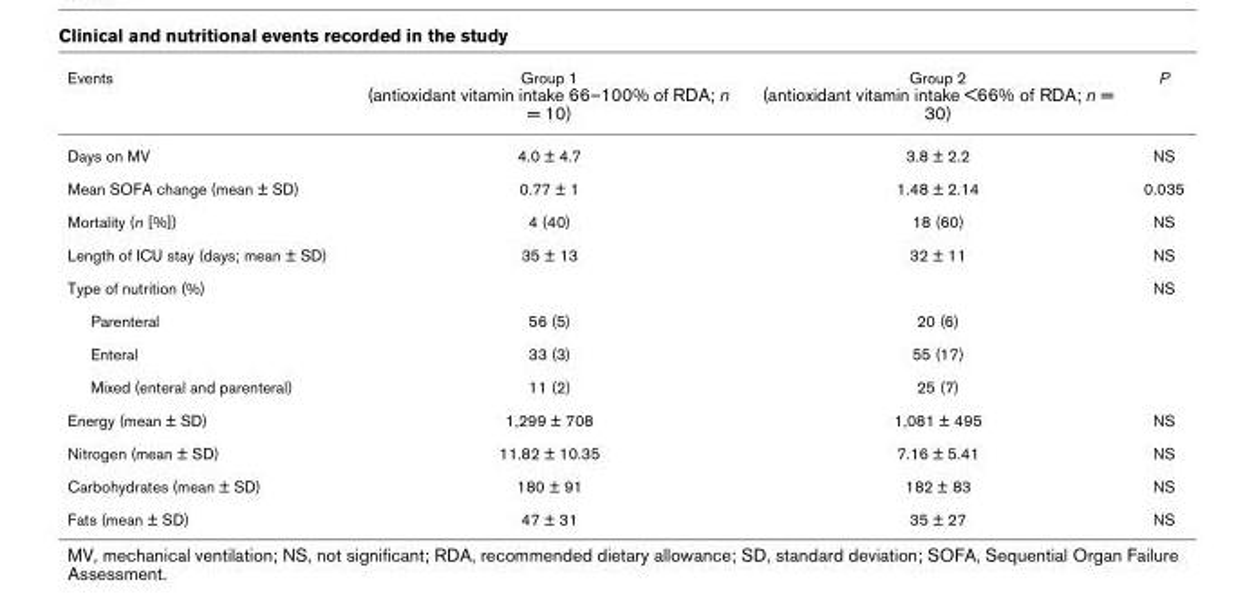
<table><thead><tr><td>Events</td><td>Group 1 (antioxidant vitamin intake 66–100% of RDA; n = 10)</td><td>Group 2 (antioxidant vitamin intake &lt;66% of RDA; n = 30)</td><td>P</td></tr></thead><tbody><tr><td>Days on MV</td><td>4.0 ± 4.7</td><td>3.8 ± 2.2</td><td>NS</td></tr><tr><td>Mean SOFA change (mean ± SD)</td><td>0.77 ± 1</td><td>1.48 ± 2.14</td><td>0.035</td></tr><tr><td>Mortality (n [%])</td><td>4 (40)</td><td>18 (60)</td><td>NS</td></tr><tr><td>Length of ICU stay (days; mean ± SD)</td><td>35 ± 13</td><td>32 ± 11</td><td>NS</td></tr><tr><td>Type of nutrition (%)</td><td></td><td></td><td>NS</td></tr><tr><td>Parenteral</td><td>56 (5)</td><td>20 (6)</td><td></td></tr><tr><td>Enteral</td><td>33 (3)</td><td>55 (17)</td><td></td></tr><tr><td>Mixed (enteral and parenteral)</td><td>11 (2)</td><td>25 (7)</td><td></td></tr><tr><td>Energy (mean ± SD)</td><td>1,299 ± 708</td><td>1,081 ± 495</td><td>NS</td></tr><tr><td>Nitrogen (mean ± SD)</td><td>11.82 ± 10.35</td><td>7.16 ± 5.41</td><td>NS</td></tr><tr><td>Carbohydrates (mean ± SD)</td><td>180 ± 91</td><td>182 ± 83</td><td>NS</td></tr><tr><td>Fats (mean ± SD)</td><td>47 ± 31</td><td>35 ± 27</td><td>NS</td></tr></tbody></table>